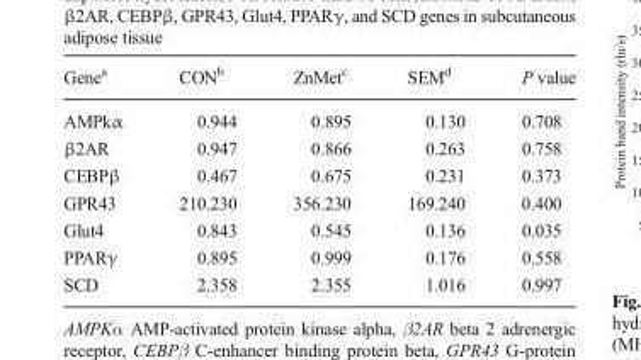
<table><thead><tr><td>Gene<sup>a</sup></td><td>CON<sup>b</sup></td><td>ZnMet<sup>c</sup></td><td>SEM<sup>d</sup></td><td>P value</td></tr></thead><tbody><tr><td>AMPkα</td><td>0.944</td><td>0.895</td><td>0.130</td><td>0.708</td></tr><tr><td>β2AR</td><td>0.947</td><td>0.866</td><td>0.263</td><td>0.758</td></tr><tr><td>CEBPβ</td><td>0.467</td><td>0.675</td><td>0.231</td><td>0.373</td></tr><tr><td>GPR43</td><td>210.230</td><td>356.230</td><td>169.240</td><td>0.400</td></tr><tr><td>Glut4</td><td>0.843</td><td>0.545</td><td>0.136</td><td>0.035</td></tr><tr><td>PPARγ</td><td>0.895</td><td>0.999</td><td>0.176</td><td>0.558</td></tr><tr><td>SCD</td><td>2.358</td><td>2.355</td><td>1.016</td><td>0.997</td></tr></tbody></table>